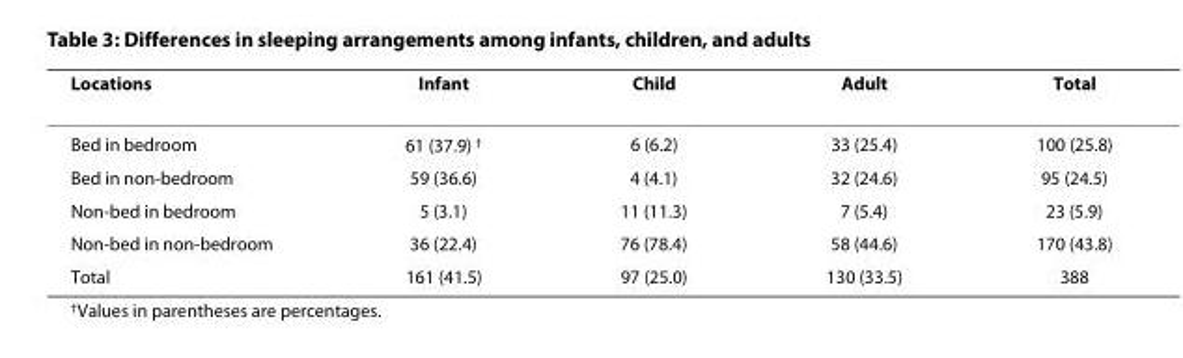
<table><thead><tr><td>Locations</td><td>Infant</td><td>Child</td><td>Adult</td><td>Total</td></tr></thead><tbody><tr><td>Bed in bedroom</td><td>61 (37.9) <sup>†</sup></td><td>6 (6.2)</td><td>33 (25.4)</td><td>100 (25.8)</td></tr><tr><td>Bed in non-bedroom</td><td>59 (36.6)</td><td>4 (4.1)</td><td>32 (24.6)</td><td>95 (24.5)</td></tr><tr><td>Non-bed in bedroom</td><td>5 (3.1)</td><td>11 (11.3)</td><td>7 (5.4)</td><td>23 (5.9)</td></tr><tr><td>Non-bed in non-bedroom</td><td>36 (22.4)</td><td>76 (78.4)</td><td>58 (44.6)</td><td>170 (43.8)</td></tr><tr><td>Total</td><td>161 (41.5)</td><td>97 (25.0)</td><td>130 (33.5)</td><td>388</td></tr></tbody></table>